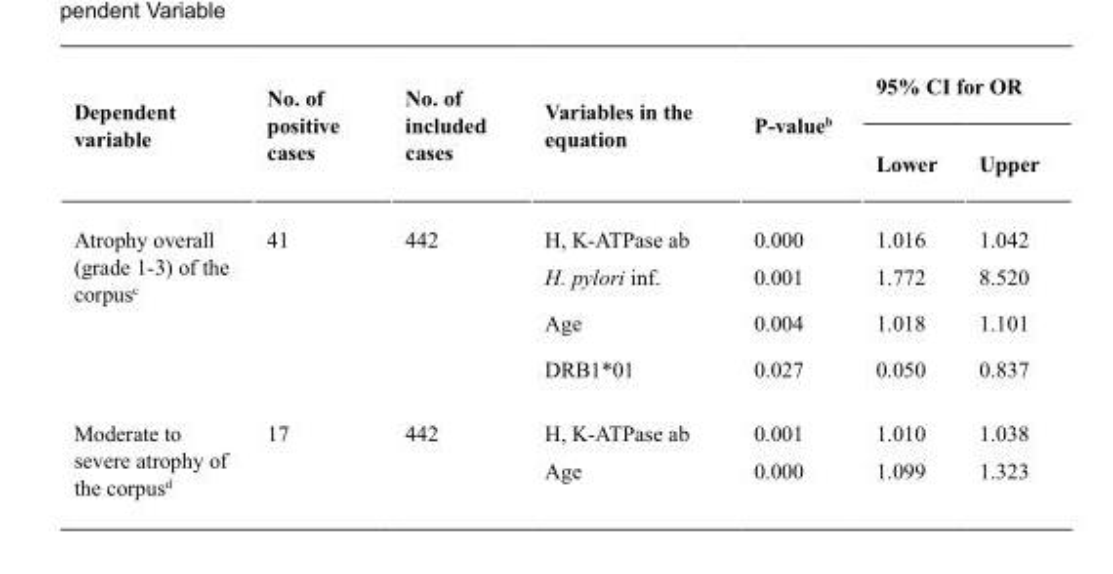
<table><thead><tr><td rowspan="2">Dependent variable</td><td rowspan="2">No. of positive cases</td><td rowspan="2">No. of included cases</td><td rowspan="2">Variables in the equation</td><td rowspan="2">P-value<sup>b</sup></td><td colspan="2">95% CI for OR</td></tr><tr><td>Lower</td><td>Upper</td></tr></thead><tbody><tr><td rowspan="4">Atrophy overall (grade 1-3) of the corpus<sup>c</sup></td><td rowspan="4">41</td><td rowspan="4">442</td><td>H, K-ATPase ab</td><td>0.000</td><td>1.016</td><td>1.042</td></tr><tr><td>H. pylori inf.</td><td>0.001</td><td>1.772</td><td>8.520</td></tr><tr><td>Age</td><td>0.004</td><td>1.018</td><td>1.101</td></tr><tr><td>DRB1*01</td><td>0.027</td><td>0.050</td><td>0.837</td></tr><tr><td rowspan="2">Moderate to severe atrophy of the corpus<sup>d</sup></td><td rowspan="2">17</td><td rowspan="2">442</td><td>H, K-ATPase ab</td><td>0.001</td><td>1.010</td><td>1.038</td></tr><tr><td>Age</td><td>0.000</td><td>1.099</td><td>1.323</td></tr></tbody></table>